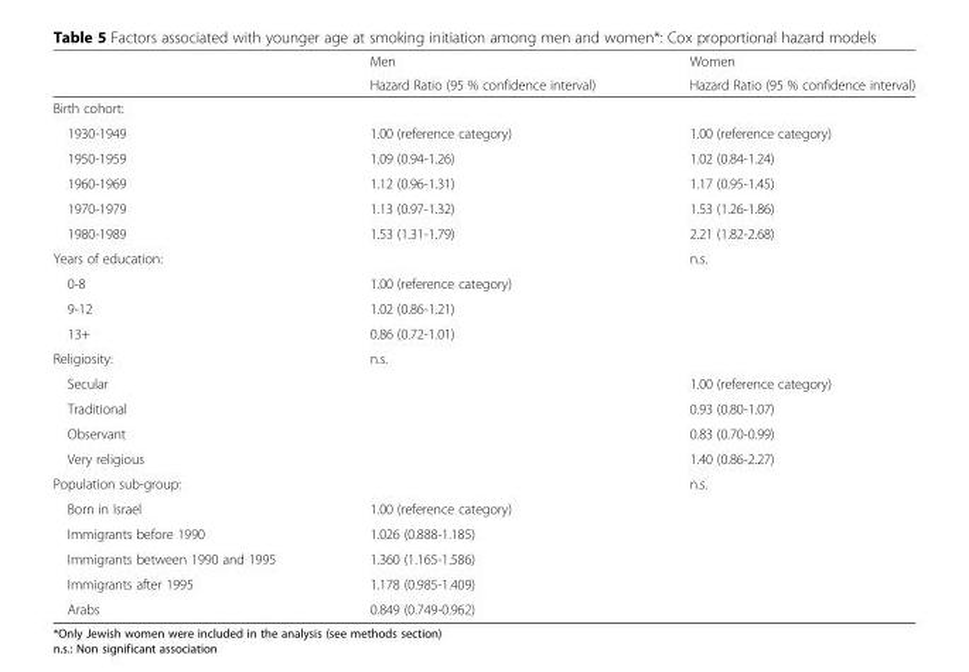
<table><thead><tr><td rowspan="2"></td><td rowspan="2">Men Hazard Ratio (95 % confidence interval)</td><td rowspan="2">Women Hazard Ratio (95 % confidence interval)</td></tr><tr></tr></thead><tbody><tr><td colspan="3">Birth cohort:</td></tr><tr><td>1930-1949</td><td>1.00 (reference category)</td><td>1.00 (reference category)</td></tr><tr><td>1950-1959</td><td>1.09 (0.94-1.26)</td><td>1.02 (0.84-1.24)</td></tr><tr><td>1960-1969</td><td>1.12 (0.96-1.31)</td><td>1.17 (0.95-1.45)</td></tr><tr><td>1970-1979</td><td>1.13 (0.97-1.32)</td><td>1.53 (1.26-1.86)</td></tr><tr><td>1980-1989</td><td>1.53 (1.31-1.79)</td><td>2.21 (1.82-2.68)</td></tr><tr><td>Years of education:</td><td></td><td>n.s.</td></tr><tr><td>0-8</td><td>1.00 (reference category)</td><td></td></tr><tr><td>9-12</td><td>1.02 (0.86-1.21)</td><td></td></tr><tr><td>13+</td><td>0.86 (0.72-1.01)</td><td></td></tr><tr><td>Religiosity:</td><td>n.s.</td><td></td></tr><tr><td>Secular</td><td></td><td>1.00 (reference category)</td></tr><tr><td>Traditional</td><td></td><td>0.93 (0.80-1.07)</td></tr><tr><td>Observant</td><td></td><td>0.83 (0.70-0.99)</td></tr><tr><td>Very religious</td><td></td><td>1.40 (0.86-2.27)</td></tr><tr><td>Population sub-group:</td><td></td><td>n.s.</td></tr><tr><td>Born in Israel</td><td>1.00 (reference category)</td><td></td></tr><tr><td>Immigrants before 1990</td><td>1.026 (0.888-1.185)</td><td></td></tr><tr><td>Immigrants between 1990 and 1995</td><td>1.360 (1.165-1.586)</td><td></td></tr><tr><td>Immigrants after 1995</td><td>1.178 (0.985-1.409)</td><td></td></tr><tr><td>Arabs</td><td>0.849 (0.749-0.962)</td><td></td></tr></tbody></table>